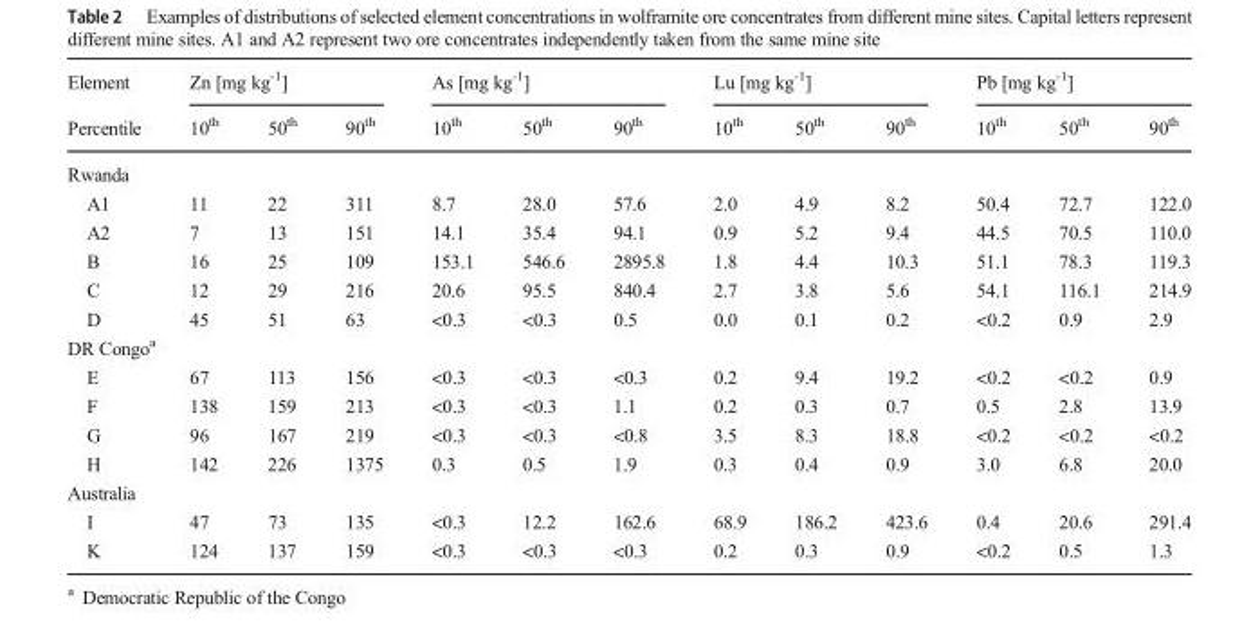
<table><thead><tr><td rowspan="2">Element Percentile</td><td colspan="3">Zn [mg kg<sup>-1</sup>]</td><td colspan="3">As [mg kg<sup>-1</sup>]</td><td colspan="3">Lu [mg kg<sup>-1</sup>]</td><td colspan="3">Pb [mg kg<sup>-1</sup>]</td></tr><tr><td>10<sup>th</sup></td><td>50<sup>th</sup></td><td>90<sup>th</sup></td><td>10<sup>th</sup></td><td>50<sup>th</sup></td><td>90<sup>th</sup></td><td>10<sup>th</sup></td><td>50<sup>th</sup></td><td>90<sup>th</sup></td><td>10<sup>th</sup></td><td>50<sup>th</sup></td><td>90<sup>th</sup></td></tr></thead><tbody><tr><td colspan="13">Rwanda</td></tr><tr><td>A1</td><td>11</td><td>22</td><td>311</td><td>8.7</td><td>28.0</td><td>57.6</td><td>2.0</td><td>4.9</td><td>8.2</td><td>50.4</td><td>72.7</td><td>122.0</td></tr><tr><td>A2</td><td>7</td><td>13</td><td>151</td><td>14.1</td><td>35.4</td><td>94.1</td><td>0.9</td><td>5.2</td><td>9.4</td><td>44.5</td><td>70.5</td><td>110.0</td></tr><tr><td>B</td><td>16</td><td>25</td><td>109</td><td>153.1</td><td>546.6</td><td>2895.8</td><td>1.8</td><td>4.4</td><td>10.3</td><td>51.1</td><td>78.3</td><td>119.3</td></tr><tr><td>C</td><td>12</td><td>29</td><td>216</td><td>20.6</td><td>95.5</td><td>840.4</td><td>2.7</td><td>3.8</td><td>5.6</td><td>54.1</td><td>116.1</td><td>214.9</td></tr><tr><td>D</td><td>45</td><td>51</td><td>63</td><td>&lt;0.3</td><td>&lt;0.3</td><td>0.5</td><td>0.0</td><td>0.1</td><td>0.2</td><td>&lt;0.2</td><td>0.9</td><td>2.9</td></tr><tr><td colspan="13">DR Congo<sup>a</sup></td></tr><tr><td>E</td><td>67</td><td>113</td><td>156</td><td>&lt;0.3</td><td>&lt;0.3</td><td>&lt;0.3</td><td>0.2</td><td>9.4</td><td>19.2</td><td>&lt;0.2</td><td>&lt;0.2</td><td>0.9</td></tr><tr><td>F</td><td>138</td><td>159</td><td>213</td><td>&lt;0.3</td><td>&lt;0.3</td><td>1.1</td><td>0.2</td><td>0.3</td><td>0.7</td><td>0.5</td><td>2.8</td><td>13.9</td></tr><tr><td>G</td><td>96</td><td>167</td><td>219</td><td>&lt;0.3</td><td>&lt;0.3</td><td>&lt;0.8</td><td>3.5</td><td>8.3</td><td>18.8</td><td>&lt;0.2</td><td>&lt;0.2</td><td>&lt;0.2</td></tr><tr><td>H</td><td>142</td><td>226</td><td>1375</td><td>0.3</td><td>0.5</td><td>1.9</td><td>0.3</td><td>0.4</td><td>0.9</td><td>3.0</td><td>6.8</td><td>20.0</td></tr><tr><td colspan="13">Australia</td></tr><tr><td>I</td><td>47</td><td>73</td><td>135</td><td>&lt;0.3</td><td>12.2</td><td>162.6</td><td>68.9</td><td>186.2</td><td>423.6</td><td>0.4</td><td>20.6</td><td>291.4</td></tr><tr><td>K</td><td>124</td><td>137</td><td>159</td><td>&lt;0.3</td><td>&lt;0.3</td><td>&lt;0.3</td><td>0.2</td><td>0.3</td><td>0.9</td><td>&lt;0.2</td><td>0.5</td><td>1.3</td></tr></tbody></table>